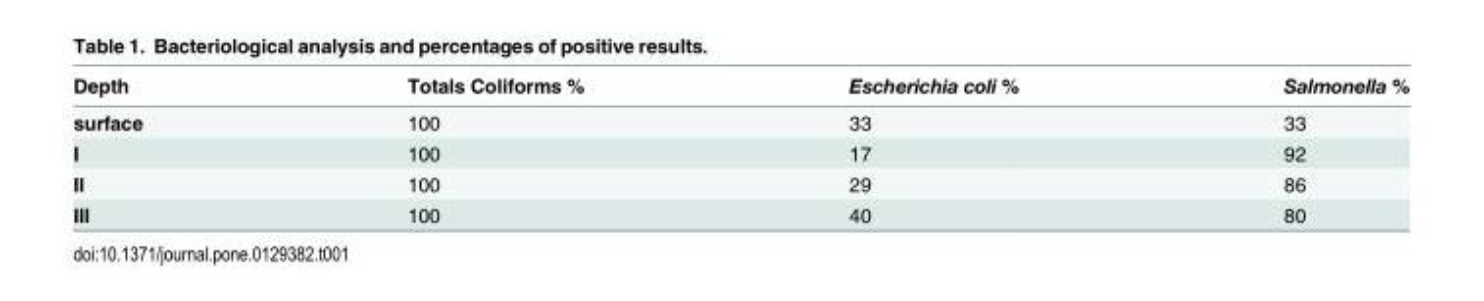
<table><thead><tr><td>Depth</td><td>Totals Coliforms %</td><td>Escherichia coli %</td><td>Salmonella %</td></tr></thead><tbody><tr><td>surface</td><td>100</td><td>33</td><td>33</td></tr><tr><td>I</td><td>100</td><td>17</td><td>92</td></tr><tr><td>II</td><td>100</td><td>29</td><td>86</td></tr><tr><td>III</td><td>100</td><td>40</td><td>80</td></tr></tbody></table>